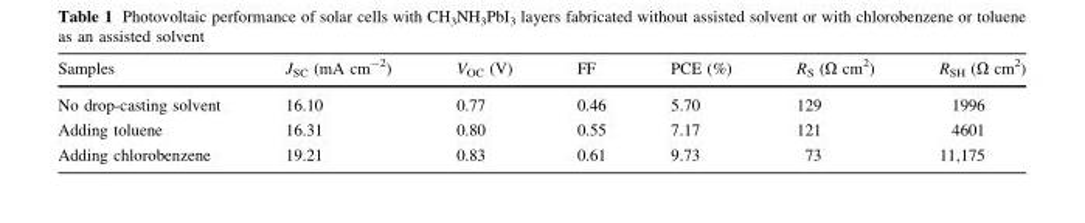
<table><thead><tr><td>Samples</td><td>J<sub>SC</sub> (mA cm<sup>-2</sup>)</td><td>V<sub>OC</sub> (V)</td><td>FF</td><td>PCE (%)</td><td>R<sub>S</sub> (Ω cm<sup>2</sup>)</td><td>R<sub>SH</sub> (Ω cm<sup>2</sup>)</td></tr></thead><tbody><tr><td>No drop-casting solvent</td><td>16.10</td><td>0.77</td><td>0.46</td><td>5.70</td><td>129</td><td>1996</td></tr><tr><td>Adding toluene</td><td>16.31</td><td>0.80</td><td>0.55</td><td>7.17</td><td>121</td><td>4601</td></tr><tr><td>Adding chlorobenzene</td><td>19.21</td><td>0.83</td><td>0.61</td><td>9.73</td><td>73</td><td>11,175</td></tr></tbody></table>